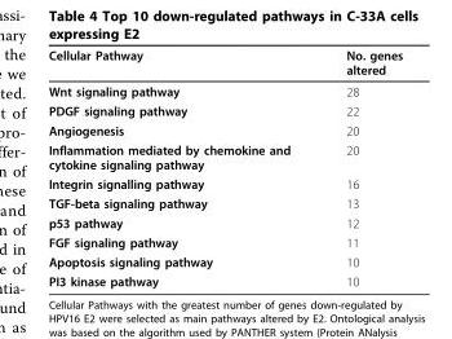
<table><thead><tr><td>Cellular Pathway</td><td>No. genes altered</td></tr></thead><tbody><tr><td>Wnt signaling pathway</td><td>28</td></tr><tr><td>PDGF signaling pathway</td><td>22</td></tr><tr><td>Angiogenesis</td><td>20</td></tr><tr><td>Inflammation mediated by chemokine and cytokine signaling pathway</td><td>20</td></tr><tr><td>Integrin signalling pathway</td><td>16</td></tr><tr><td>TGF-beta signaling pathway</td><td>13</td></tr><tr><td>p53 pathway</td><td>12</td></tr><tr><td>FGF signaling pathway</td><td>11</td></tr><tr><td>Apoptosis signaling pathway</td><td>10</td></tr><tr><td>PI3 kinase pathway</td><td>10</td></tr></tbody></table>